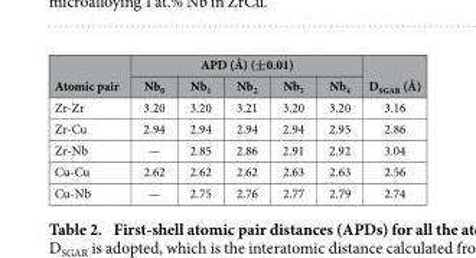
<table><thead><tr><td rowspan="2">Atomic pair</td><td colspan="5">APD (Å) (±0.01)</td><td rowspan="2">D<sub>SGAR</sub> (Å)</td></tr><tr><td>Nb<sub>0</sub></td><td>Nb<sub>1</sub></td><td>Nb<sub>2</sub></td><td>Nb<sub>3</sub></td><td>Nb<sub>4</sub></td></tr></thead><tbody><tr><td>Zr-Zr</td><td>3.20</td><td>3.20</td><td>3.21</td><td>3.20</td><td>3.20</td><td>3.16</td></tr><tr><td>Zr-Cu</td><td>2.94</td><td>2.94</td><td>2.94</td><td>2.94</td><td>2.95</td><td>2.86</td></tr><tr><td>Zr-Nb</td><td>—</td><td>2.85</td><td>2.86</td><td>2.91</td><td>2.92</td><td>3.04</td></tr><tr><td>Cu-Cu</td><td>2.62</td><td>2.62</td><td>2.62</td><td>2.63</td><td>2.63</td><td>2.56</td></tr><tr><td>Cu-Nb</td><td>—</td><td>2.75</td><td>2.76</td><td>2.77</td><td>2.79</td><td>2.74</td></tr></tbody></table>